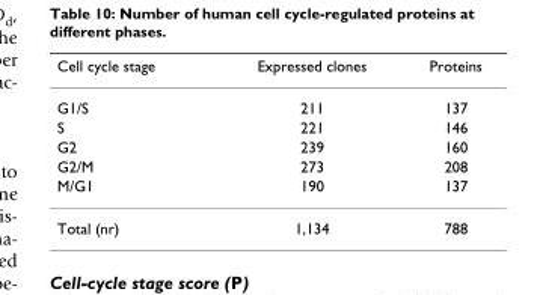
<table><thead><tr><td>Cell cycle stage</td><td>Expressed clones</td><td>Proteins</td></tr></thead><tbody><tr><td>G1/S</td><td>211</td><td>137</td></tr><tr><td>S</td><td>221</td><td>146</td></tr><tr><td>G2</td><td>239</td><td>160</td></tr><tr><td>G2/M</td><td>273</td><td>208</td></tr><tr><td>M/G1</td><td>190</td><td>137</td></tr><tr><td>Total (nr)</td><td>1,134</td><td>788</td></tr></tbody></table>